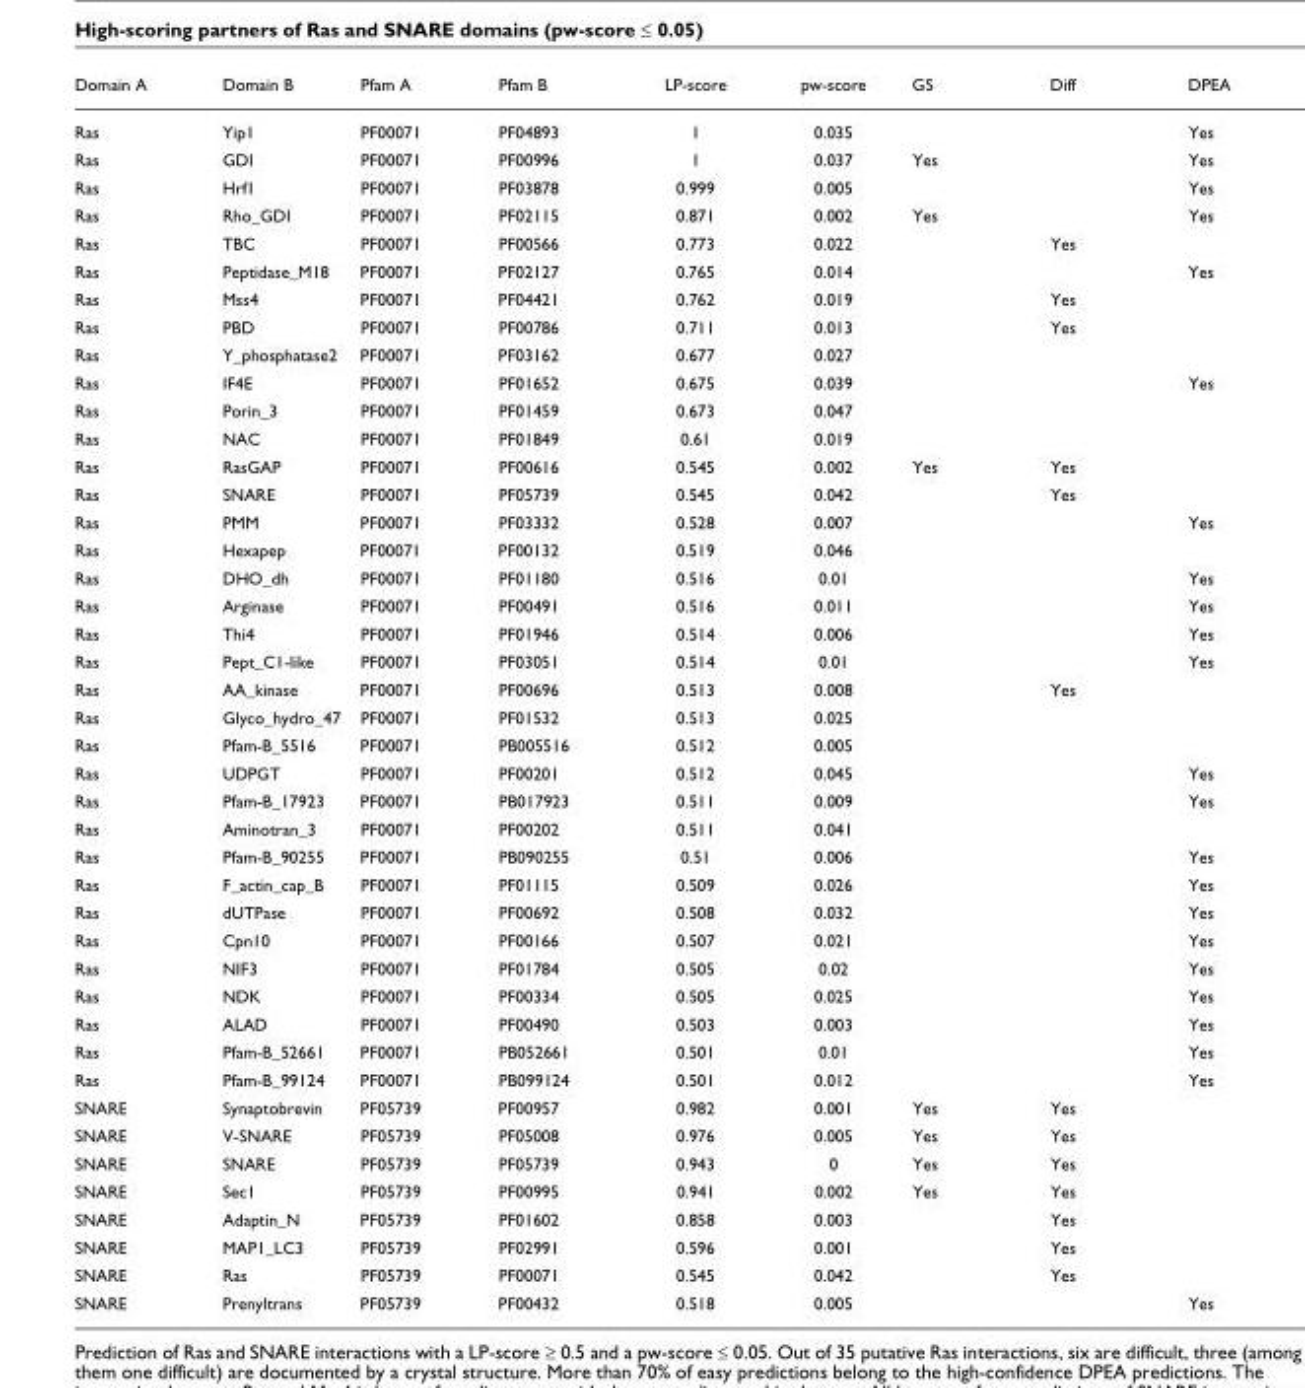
<table><thead><tr><td>Domain A</td><td>Domain B</td><td>Pfam A</td><td>Pfam B</td><td>LP-score</td><td>pw-score</td><td>GS</td><td>Diff</td><td>DPEA</td></tr></thead><tbody><tr><td>Ras</td><td>Yip1</td><td>PF00071</td><td>PF04893</td><td>1</td><td>0.035</td><td></td><td></td><td>Yes</td></tr><tr><td>Ras</td><td>GDI</td><td>PF00071</td><td>PF00996</td><td>1</td><td>0.037</td><td>Yes</td><td></td><td>Yes</td></tr><tr><td>Ras</td><td>Hrf1</td><td>PF00071</td><td>PF03878</td><td>0.999</td><td>0.005</td><td></td><td></td><td>Yes</td></tr><tr><td>Ras</td><td>Rho_GDI</td><td>PF00071</td><td>PF02115</td><td>0.871</td><td>0.002</td><td>Yes</td><td></td><td>Yes</td></tr><tr><td>Ras</td><td>TBC</td><td>PF00071</td><td>PF00566</td><td>0.773</td><td>0.022</td><td></td><td>Yes</td><td></td></tr><tr><td>Ras</td><td>Peptidase_M18</td><td>PF00071</td><td>PF02127</td><td>0.765</td><td>0.014</td><td></td><td></td><td>Yes</td></tr><tr><td>Ras</td><td>Mss4</td><td>PF00071</td><td>PF04421</td><td>0.762</td><td>0.019</td><td></td><td>Yes</td><td></td></tr><tr><td>Ras</td><td>PBD</td><td>PF00071</td><td>PF00786</td><td>0.711</td><td>0.013</td><td></td><td>Yes</td><td></td></tr><tr><td>Ras</td><td>Y_phosphatase2</td><td>PF00071</td><td>PF03162</td><td>0.677</td><td>0.027</td><td></td><td></td><td></td></tr><tr><td>Ras</td><td>IF4E</td><td>PF00071</td><td>PF01652</td><td>0.675</td><td>0.039</td><td></td><td></td><td>Yes</td></tr><tr><td>Ras</td><td>Porin_3</td><td>PF00071</td><td>PF01459</td><td>0.673</td><td>0.047</td><td></td><td></td><td></td></tr><tr><td>Ras</td><td>NAC</td><td>PF00071</td><td>PF01849</td><td>0.61</td><td>0.019</td><td></td><td></td><td></td></tr><tr><td>Ras</td><td>RasGAP</td><td>PF00071</td><td>PF00616</td><td>0.545</td><td>0.002</td><td>Yes</td><td>Yes</td><td></td></tr><tr><td>Ras</td><td>SNARE</td><td>PF00071</td><td>PF05739</td><td>0.545</td><td>0.042</td><td></td><td>Yes</td><td></td></tr><tr><td>Ras</td><td>PMM</td><td>PF00071</td><td>PF03332</td><td>0.528</td><td>0.007</td><td></td><td></td><td>Yes</td></tr><tr><td>Ras</td><td>Hexapep</td><td>PF00071</td><td>PF00132</td><td>0.519</td><td>0.046</td><td></td><td></td><td></td></tr><tr><td>Ras</td><td>DHO_dh</td><td>PF00071</td><td>PF01180</td><td>0.516</td><td>0.01</td><td></td><td></td><td>Yes</td></tr><tr><td>Ras</td><td>Arginase</td><td>PF00071</td><td>PF00491</td><td>0.516</td><td>0.011</td><td></td><td></td><td>Yes</td></tr><tr><td>Ras</td><td>Thi4</td><td>PF00071</td><td>PF01946</td><td>0.514</td><td>0.006</td><td></td><td></td><td>Yes</td></tr><tr><td>Ras</td><td>Pept_C1-like</td><td>PF00071</td><td>PF03051</td><td>0.514</td><td>0.01</td><td></td><td></td><td>Yes</td></tr><tr><td>Ras</td><td>AA_kinase</td><td>PF00071</td><td>PF00696</td><td>0.513</td><td>0.008</td><td></td><td>Yes</td><td></td></tr><tr><td>Ras</td><td>Glyco_hydro_47</td><td>PF00071</td><td>PF01532</td><td>0.513</td><td>0.025</td><td></td><td></td><td></td></tr><tr><td>Ras</td><td>Pfam-B_5516</td><td>PF00071</td><td>PB005516</td><td>0.512</td><td>0.005</td><td></td><td></td><td></td></tr><tr><td>Ras</td><td>UDPGT</td><td>PF00071</td><td>PF00201</td><td>0.512</td><td>0.045</td><td></td><td></td><td>Yes</td></tr><tr><td>Ras</td><td>Pfam-B_17923</td><td>PF00071</td><td>PB017923</td><td>0.511</td><td>0.009</td><td></td><td></td><td>Yes</td></tr><tr><td>Ras</td><td>Aminotran_3</td><td>PF00071</td><td>PF00202</td><td>0.511</td><td>0.041</td><td></td><td></td><td></td></tr><tr><td>Ras</td><td>Pfam-B_90255</td><td>PF00071</td><td>PB090255</td><td>0.51</td><td>0.006</td><td></td><td></td><td>Yes</td></tr><tr><td>Ras</td><td>F_actin_cap_B</td><td>PF00071</td><td>PF01115</td><td>0.509</td><td>0.026</td><td></td><td></td><td>Yes</td></tr><tr><td>Ras</td><td>dUTPase</td><td>PF00071</td><td>PF00692</td><td>0.508</td><td>0.032</td><td></td><td></td><td>Yes</td></tr><tr><td>Ras</td><td>Cpn10</td><td>PF00071</td><td>PF00166</td><td>0.507</td><td>0.021</td><td></td><td></td><td>Yes</td></tr><tr><td>Ras</td><td>NIF3</td><td>PF00071</td><td>PF01784</td><td>0.505</td><td>0.02</td><td></td><td></td><td>Yes</td></tr><tr><td>Ras</td><td>NDK</td><td>PF00071</td><td>PF00334</td><td>0.505</td><td>0.025</td><td></td><td></td><td>Yes</td></tr><tr><td>Ras</td><td>ALAD</td><td>PF00071</td><td>PF00490</td><td>0.503</td><td>0.003</td><td></td><td></td><td>Yes</td></tr><tr><td>Ras</td><td>Pfam-B_52661</td><td>PF00071</td><td>PB052661</td><td>0.501</td><td>0.01</td><td></td><td></td><td>Yes</td></tr><tr><td>Ras</td><td>Pfam-B_99124</td><td>PF00071</td><td>PB099124</td><td>0.501</td><td>0.012</td><td></td><td></td><td>Yes</td></tr><tr><td>SNARE</td><td>Synaptobrevin</td><td>PF05739</td><td>PF00957</td><td>0.982</td><td>0.001</td><td>Yes</td><td>Yes</td><td></td></tr><tr><td>SNARE</td><td>V-SNARE</td><td>PF05739</td><td>PF05008</td><td>0.976</td><td>0.005</td><td>Yes</td><td>Yes</td><td></td></tr><tr><td>SNARE</td><td>SNARE</td><td>PF05739</td><td>PF05739</td><td>0.943</td><td>0</td><td>Yes</td><td>Yes</td><td></td></tr><tr><td>SNARE</td><td>Sec1</td><td>PF05739</td><td>PF00995</td><td>0.941</td><td>0.002</td><td>Yes</td><td>Yes</td><td></td></tr><tr><td>SNARE</td><td>Adaptin_N</td><td>PF05739</td><td>PF01602</td><td>0.858</td><td>0.003</td><td></td><td>Yes</td><td></td></tr><tr><td>SNARE</td><td>MAP1_LC3</td><td>PF05739</td><td>PF02991</td><td>0.596</td><td>0.001</td><td></td><td>Yes</td><td></td></tr><tr><td>SNARE</td><td>Ras</td><td>PF05739</td><td>PF00071</td><td>0.545</td><td>0.042</td><td></td><td>Yes</td><td></td></tr><tr><td>SNARE</td><td>Prenyltrans</td><td>PF05739</td><td>PF00432</td><td>0.518</td><td>0.005</td><td></td><td></td><td>Yes</td></tr></tbody></table>